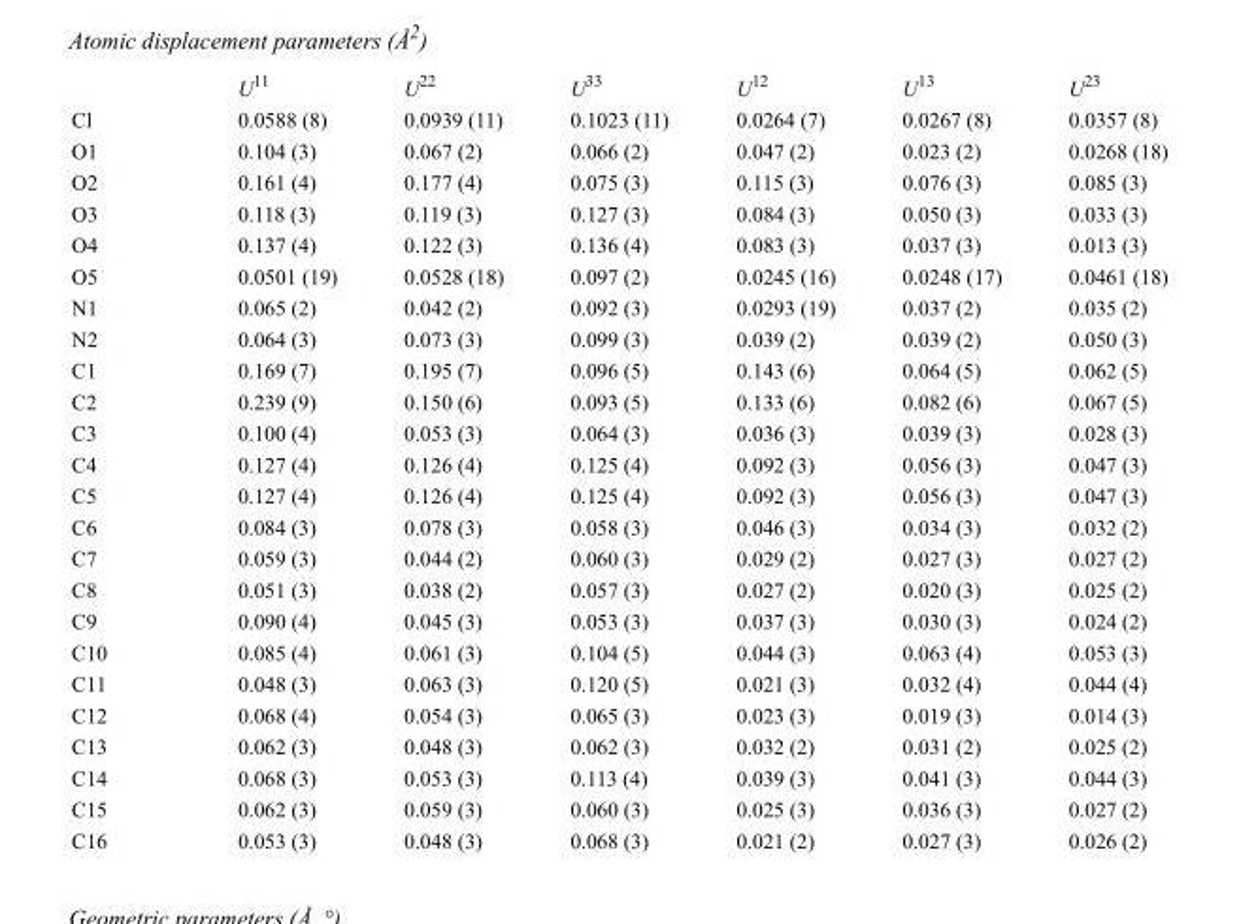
<table><thead><tr><td></td><td>U<sup>11</sup></td><td>U<sup>22</sup></td><td>U<sup>33</sup></td><td>U<sup>12</sup></td><td>U<sup>13</sup></td><td>U<sup>23</sup></td></tr></thead><tbody><tr><td>Cl</td><td>0.0588 (8)</td><td>0.0939 (11)</td><td>0.1023 (11)</td><td>0.0264 (7)</td><td>0.0267 (8)</td><td>0.0357 (8)</td></tr><tr><td>O1</td><td>0.104 (3)</td><td>0.067 (2)</td><td>0.066 (2)</td><td>0.047 (2)</td><td>0.023 (2)</td><td>0.0268 (18)</td></tr><tr><td>O2</td><td>0.161 (4)</td><td>0.177 (4)</td><td>0.075 (3)</td><td>0.115 (3)</td><td>0.076 (3)</td><td>0.085 (3)</td></tr><tr><td>O3</td><td>0.118 (3)</td><td>0.119 (3)</td><td>0.127 (3)</td><td>0.084 (3)</td><td>0.050 (3)</td><td>0.033 (3)</td></tr><tr><td>O4</td><td>0.137 (4)</td><td>0.122 (3)</td><td>0.136 (4)</td><td>0.083 (3)</td><td>0.037 (3)</td><td>0.013 (3)</td></tr><tr><td>O5</td><td>0.0501 (19)</td><td>0.0528 (18)</td><td>0.097 (2)</td><td>0.0245 (16)</td><td>0.0248 (17)</td><td>0.0461 (18)</td></tr><tr><td>N1</td><td>0.065 (2)</td><td>0.042 (2)</td><td>0.092 (3)</td><td>0.0293 (19)</td><td>0.037 (2)</td><td>0.035 (2)</td></tr><tr><td>N2</td><td>0.064 (3)</td><td>0.073 (3)</td><td>0.099 (3)</td><td>0.039 (2)</td><td>0.039 (2)</td><td>0.050 (3)</td></tr><tr><td>C1</td><td>0.169 (7)</td><td>0.195 (7)</td><td>0.096 (5)</td><td>0.143 (6)</td><td>0.064 (5)</td><td>0.062 (5)</td></tr><tr><td>C2</td><td>0.239 (9)</td><td>0.150 (6)</td><td>0.093 (5)</td><td>0.133 (6)</td><td>0.082 (6)</td><td>0.067 (5)</td></tr><tr><td>C3</td><td>0.100 (4)</td><td>0.053 (3)</td><td>0.064 (3)</td><td>0.036 (3)</td><td>0.039 (3)</td><td>0.028 (3)</td></tr><tr><td>C4</td><td>0.127 (4)</td><td>0.126 (4)</td><td>0.125 (4)</td><td>0.092 (3)</td><td>0.056 (3)</td><td>0.047 (3)</td></tr><tr><td>C5</td><td>0.127 (4)</td><td>0.126 (4)</td><td>0.125 (4)</td><td>0.092 (3)</td><td>0.056 (3)</td><td>0.047 (3)</td></tr><tr><td>C6</td><td>0.084 (3)</td><td>0.078 (3)</td><td>0.058 (3)</td><td>0.046 (3)</td><td>0.034 (3)</td><td>0.032 (2)</td></tr><tr><td>C7</td><td>0.059 (3)</td><td>0.044 (2)</td><td>0.060 (3)</td><td>0.029 (2)</td><td>0.027 (3)</td><td>0.027 (2)</td></tr><tr><td>C8</td><td>0.051 (3)</td><td>0.038 (2)</td><td>0.057 (3)</td><td>0.027 (2)</td><td>0.020 (3)</td><td>0.025 (2)</td></tr><tr><td>C9</td><td>0.090 (4)</td><td>0.045 (3)</td><td>0.053 (3)</td><td>0.037 (3)</td><td>0.030 (3)</td><td>0.024 (2)</td></tr><tr><td>C10</td><td>0.085 (4)</td><td>0.061 (3)</td><td>0.104 (5)</td><td>0.044 (3)</td><td>0.063 (4)</td><td>0.053 (3)</td></tr><tr><td>C11</td><td>0.048 (3)</td><td>0.063 (3)</td><td>0.120 (5)</td><td>0.021 (3)</td><td>0.032 (4)</td><td>0.044 (4)</td></tr><tr><td>C12</td><td>0.068 (4)</td><td>0.054 (3)</td><td>0.065 (3)</td><td>0.023 (3)</td><td>0.019 (3)</td><td>0.014 (3)</td></tr><tr><td>C13</td><td>0.062 (3)</td><td>0.048 (3)</td><td>0.062 (3)</td><td>0.032 (2)</td><td>0.031 (2)</td><td>0.025 (2)</td></tr><tr><td>C14</td><td>0.068 (3)</td><td>0.053 (3)</td><td>0.113 (4)</td><td>0.039 (3)</td><td>0.041 (3)</td><td>0.044 (3)</td></tr><tr><td>C15</td><td>0.062 (3)</td><td>0.059 (3)</td><td>0.060 (3)</td><td>0.025 (3)</td><td>0.036 (3)</td><td>0.027 (2)</td></tr><tr><td>C16</td><td>0.053 (3)</td><td>0.048 (3)</td><td>0.068 (3)</td><td>0.021 (2)</td><td>0.027 (3)</td><td>0.026 (2)</td></tr></tbody></table>